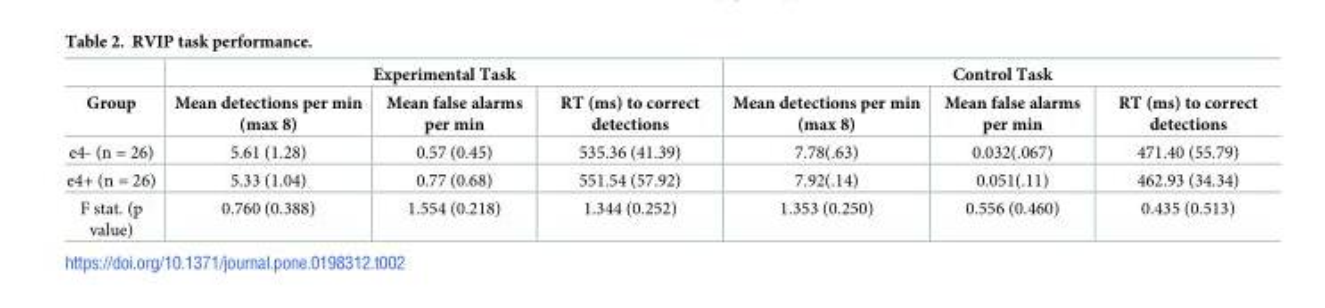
<table><thead><tr><td rowspan="2">Group</td><td colspan="3">Experimental Task</td><td colspan="3">Control Task</td></tr><tr><td>Mean detections per min (max 8)</td><td>Mean false alarms per min</td><td>RT (ms) to correct detections</td><td>Mean detections per min (max 8)</td><td>Mean false alarms per min</td><td>RT (ms) to correct detections</td></tr></thead><tbody><tr><td>e4- (n = 26)</td><td>5.61 (1.28)</td><td>0.57 (0.45)</td><td>535.36 (41.39)</td><td>7.78(.63)</td><td>0.032(.067)</td><td>471.40 (55.79)</td></tr><tr><td>e4+ (n = 26)</td><td>5.33 (1.04)</td><td>0.77 (0.68)</td><td>551.54 (57.92)</td><td>7.92(.14)</td><td>0.051(.11)</td><td>462.93 (34.34)</td></tr><tr><td>F stat. (p value)</td><td>0.760 (0.388)</td><td>1.554 (0.218)</td><td>1.344 (0.252)</td><td>1.353 (0.250)</td><td>0.556 (0.460)</td><td>0.435 (0.513)</td></tr></tbody></table>